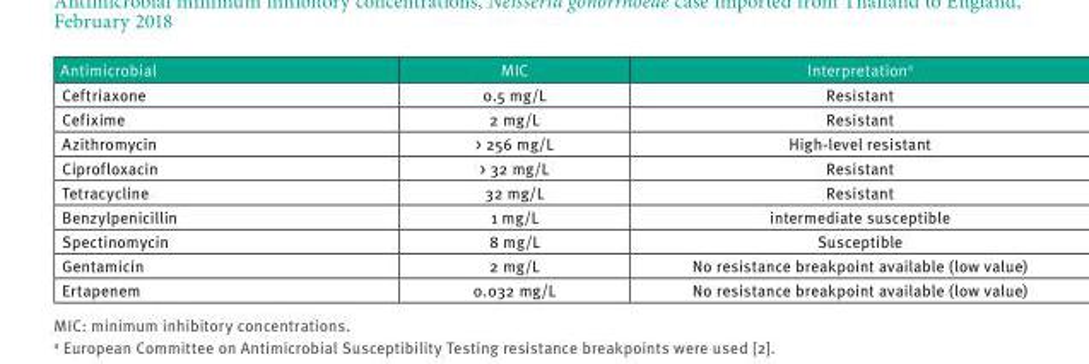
<table><thead><tr><td>Antimicrobial</td><td>MIC</td><td>Interpretation<sup>a</sup></td></tr></thead><tbody><tr><td>Ceftriaxone</td><td>0.5 mg/L</td><td>Resistant</td></tr><tr><td>Cefixime</td><td>2 mg/L</td><td>Resistant</td></tr><tr><td>Azithromycin</td><td>&gt; 256 mg/L</td><td>High-level resistant</td></tr><tr><td>Ciprofloxacin</td><td>&gt; 32 mg/L</td><td>Resistant</td></tr><tr><td>Tetracycline</td><td>32 mg/L</td><td>Resistant</td></tr><tr><td>Benzylpenicillin</td><td>1 mg/L</td><td>intermediate susceptible</td></tr><tr><td>Spectinomycin</td><td>8 mg/L</td><td>Susceptible</td></tr><tr><td>Gentamicin</td><td>2 mg/L</td><td>No resistance breakpoint available (low value)</td></tr><tr><td>Ertapenem</td><td>0.032 mg/L</td><td>No resistance breakpoint available (low value)</td></tr></tbody></table>